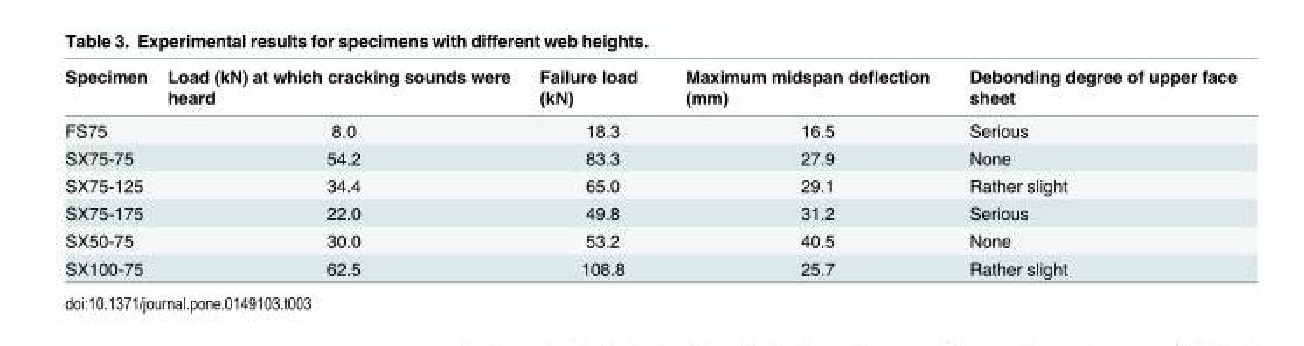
<table><thead><tr><td>Specimen</td><td>Load (kN) at which cracking sounds were heard</td><td>Failure load (kN)</td><td>Maximum midspan deflection (mm)</td><td>Debonding degree of upper face sheet</td></tr></thead><tbody><tr><td>FS75</td><td>8.0</td><td>18.3</td><td>16.5</td><td>Serious</td></tr><tr><td>SX75-75</td><td>54.2</td><td>83.3</td><td>27.9</td><td>None</td></tr><tr><td>SX75-125</td><td>34.4</td><td>65.0</td><td>29.1</td><td>Rather slight</td></tr><tr><td>SX75-175</td><td>22.0</td><td>49.8</td><td>31.2</td><td>Serious</td></tr><tr><td>SX50-75</td><td>30.0</td><td>53.2</td><td>40.5</td><td>None</td></tr><tr><td>SX100-75</td><td>62.5</td><td>108.8</td><td>25.7</td><td>Rather slight</td></tr></tbody></table>